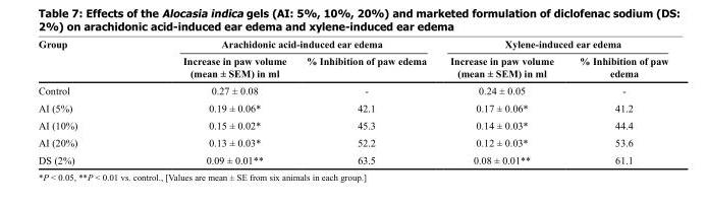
<table><thead><tr><td rowspan="2">Group</td><td colspan="2">Arachidonic acid-induced ear edema</td><td colspan="2">Xylene-induced ear edema</td></tr><tr><td>Increase in paw volume (mean ± SEM) in ml</td><td>% Inhibition of paw edema</td><td>Increase in paw volume (mean ± SEM) in ml</td><td>% Inhibition of paw edema</td></tr></thead><tbody><tr><td>Control</td><td>0.27 ± 0.08</td><td>-</td><td>0.24 ± 0.05</td><td>-</td></tr><tr><td>AI (5%)</td><td>0.19 ± 0.06*</td><td>42.1</td><td>0.17 ± 0.06*</td><td>41.2</td></tr><tr><td>AI (10%)</td><td>0.15 ± 0.02*</td><td>45.3</td><td>0.14 ± 0.03*</td><td>44.4</td></tr><tr><td>AI (20%)</td><td>0.13 ± 0.03*</td><td>52.2</td><td>0.12 ± 0.03*</td><td>53.6</td></tr><tr><td>DS (2%)</td><td>0.09 ± 0.01**</td><td>63.5</td><td>0.08 ± 0.01**</td><td>61.1</td></tr></tbody></table>